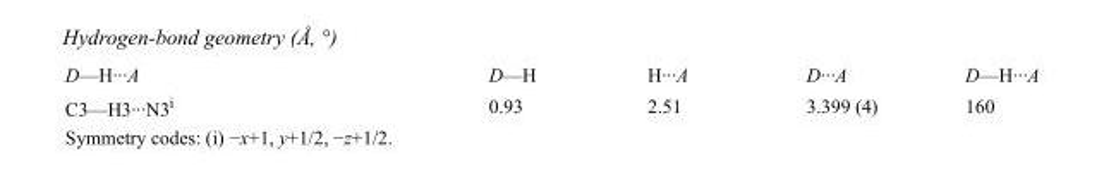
<table><tbody><tr><td>D—H···A</td><td>D—H</td><td>H···A</td><td>D···A</td><td>D—H···A</td></tr><tr><td>C3—H3···N3<sup>i</sup></td><td>0.93</td><td>2.51</td><td>3.399 (4)</td><td>160</td></tr></tbody></table>